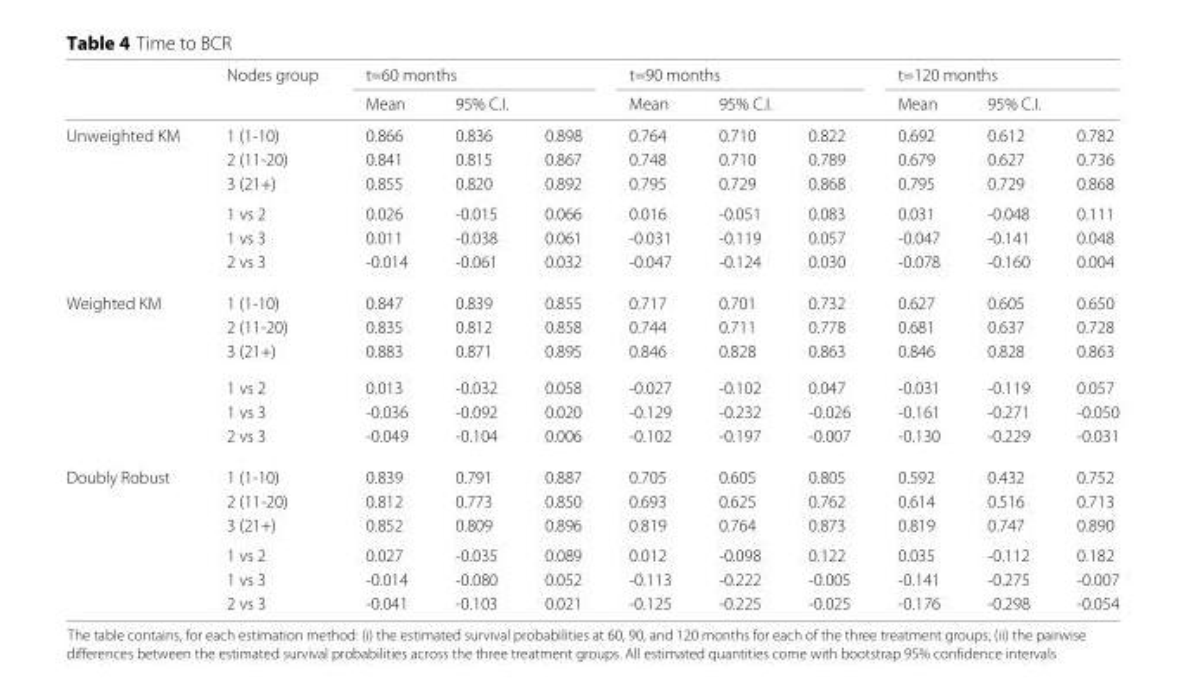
<table><thead><tr><td rowspan="3">Unweighted KM</td><td rowspan="3">Nodes group 1 (1-10)</td><td colspan="3">t=60 months</td><td colspan="3">t=90 months</td><td colspan="3">t=120 months</td></tr><tr><td rowspan="2">Mean 0.866</td><td colspan="2">95% C.I.</td><td rowspan="2">Mean 0.764</td><td colspan="2">95% C.I.</td><td rowspan="2">Mean 0.692</td><td colspan="2">95% C.I.</td></tr><tr><td>0.836</td><td>0.898</td><td>0.710</td><td>0.822</td><td>0.612</td><td>0.782</td></tr></thead><tbody><tr><td></td><td>2 (11-20)</td><td>0.841</td><td>0.815</td><td>0.867</td><td>0.748</td><td>0.710</td><td>0.789</td><td>0.679</td><td>0.627</td><td>0.736</td></tr><tr><td></td><td>3 (21+)</td><td>0.855</td><td>0.820</td><td>0.892</td><td>0.795</td><td>0.729</td><td>0.868</td><td>0.795</td><td>0.729</td><td>0.868</td></tr><tr><td></td><td>1 vs 2</td><td>0.026</td><td>-0.015</td><td>0.066</td><td>0.016</td><td>-0.051</td><td>0.083</td><td>0.031</td><td>-0.048</td><td>0.111</td></tr><tr><td></td><td>1 vs 3</td><td>0.011</td><td>-0.038</td><td>0.061</td><td>-0.031</td><td>-0.119</td><td>0.057</td><td>-0.047</td><td>-0.141</td><td>0.048</td></tr><tr><td></td><td>2 vs 3</td><td>-0.014</td><td>-0.061</td><td>0.032</td><td>-0.047</td><td>-0.124</td><td>0.030</td><td>-0.078</td><td>-0.160</td><td>0.004</td></tr><tr><td rowspan="6">Weighted KM</td><td>1 (1-10)</td><td>0.847</td><td>0.839</td><td>0.855</td><td>0.717</td><td>0.701</td><td>0.732</td><td>0.627</td><td>0.605</td><td>0.650</td></tr><tr><td>2 (11-20)</td><td>0.835</td><td>0.812</td><td>0.858</td><td>0.744</td><td>0.711</td><td>0.778</td><td>0.681</td><td>0.637</td><td>0.728</td></tr><tr><td>3 (21+)</td><td>0.883</td><td>0.871</td><td>0.895</td><td>0.846</td><td>0.828</td><td>0.863</td><td>0.846</td><td>0.828</td><td>0.863</td></tr><tr><td>1 vs 2</td><td>0.013</td><td>-0.032</td><td>0.058</td><td>-0.027</td><td>-0.102</td><td>0.047</td><td>-0.031</td><td>-0.119</td><td>0.057</td></tr><tr><td>1 vs 3</td><td>-0.036</td><td>-0.092</td><td>0.020</td><td>-0.129</td><td>-0.232</td><td>-0.026</td><td>-0.161</td><td>-0.271</td><td>-0.050</td></tr><tr><td>2 vs 3</td><td>-0.049</td><td>-0.104</td><td>0.006</td><td>-0.102</td><td>-0.197</td><td>-0.007</td><td>-0.130</td><td>-0.229</td><td>-0.031</td></tr><tr><td rowspan="6">Doubly Robust</td><td>1 (1-10)</td><td>0.839</td><td>0.791</td><td>0.887</td><td>0.705</td><td>0.605</td><td>0.805</td><td>0.592</td><td>0.432</td><td>0.752</td></tr><tr><td>2 (11-20)</td><td>0.812</td><td>0.773</td><td>0.850</td><td>0.693</td><td>0.625</td><td>0.762</td><td>0.614</td><td>0.516</td><td>0.713</td></tr><tr><td>3 (21+)</td><td>0.852</td><td>0.809</td><td>0.896</td><td>0.819</td><td>0.764</td><td>0.873</td><td>0.819</td><td>0.747</td><td>0.890</td></tr><tr><td>1 vs 2</td><td>0.027</td><td>-0.035</td><td>0.089</td><td>0.012</td><td>-0.098</td><td>0.122</td><td>0.035</td><td>-0.112</td><td>0.182</td></tr><tr><td>1 vs 3</td><td>-0.014</td><td>-0.080</td><td>0.052</td><td>-0.113</td><td>-0.222</td><td>-0.005</td><td>-0.141</td><td>-0.275</td><td>-0.007</td></tr><tr><td>2 vs 3</td><td>-0.041</td><td>-0.103</td><td>0.021</td><td>-0.125</td><td>-0.225</td><td>-0.025</td><td>-0.176</td><td>-0.298</td><td>-0.054</td></tr></tbody></table>